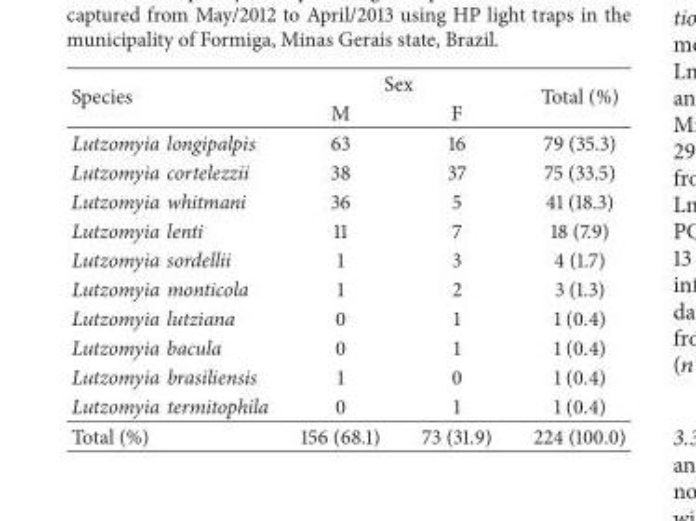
<table><thead><tr><td rowspan="2">Species</td><td colspan="2">Sex</td><td rowspan="2">Total (%)</td></tr><tr><td>M</td><td>F</td></tr></thead><tbody><tr><td>Lutzomyia longipalpis</td><td>63</td><td>16</td><td>79 (35.3)</td></tr><tr><td>Lutzomyia cortelezzii</td><td>38</td><td>37</td><td>75 (33.5)</td></tr><tr><td>Lutzomyia whitmani</td><td>36</td><td>5</td><td>41 (18.3)</td></tr><tr><td>Lutzomyia lenti</td><td>11</td><td>7</td><td>18 (7.9)</td></tr><tr><td>Lutzomyia sordellii</td><td>1</td><td>3</td><td>4 (1.7)</td></tr><tr><td>Lutzomyia monticola</td><td>1</td><td>2</td><td>3 (1.3)</td></tr><tr><td>Lutzomyia lutziana</td><td>0</td><td>1</td><td>1 (0.4)</td></tr><tr><td>Lutzomyia bacula</td><td>0</td><td>1</td><td>1 (0.4)</td></tr><tr><td>Lutzomyia brasiliensis</td><td>1</td><td>0</td><td>1 (0.4)</td></tr><tr><td>Lutzomyia termitophila</td><td>0</td><td>1</td><td>1 (0.4)</td></tr><tr><td>Total (%)</td><td>156 (68.1)</td><td>73 (31.9)</td><td>224 (100.0)</td></tr></tbody></table>